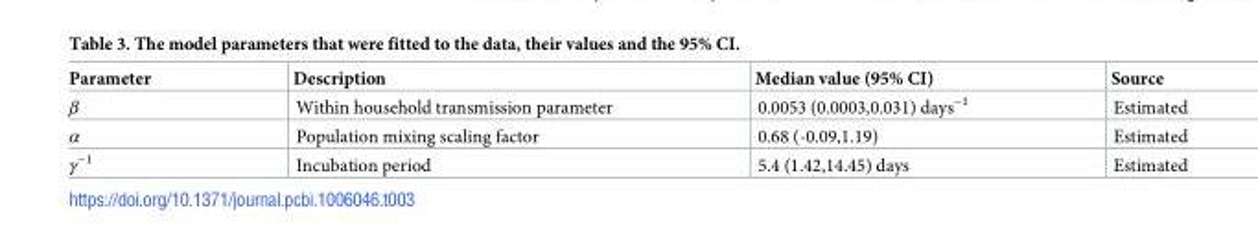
<table><thead><tr><td>Parameter</td><td>Description</td><td>Median value (95% CI)</td><td>Source</td></tr></thead><tbody><tr><td>β</td><td>Within household transmission parameter</td><td>0.0053 (0.0003,0.031) days<sup>−1</sup></td><td>Estimated</td></tr><tr><td>α</td><td>Population mixing scaling factor</td><td>0.68 (-0.09,1.19)</td><td>Estimated</td></tr><tr><td>γ<sup>−1</sup></td><td>Incubation period</td><td>5.4 (1.42,14.45) days</td><td>Estimated</td></tr></tbody></table>